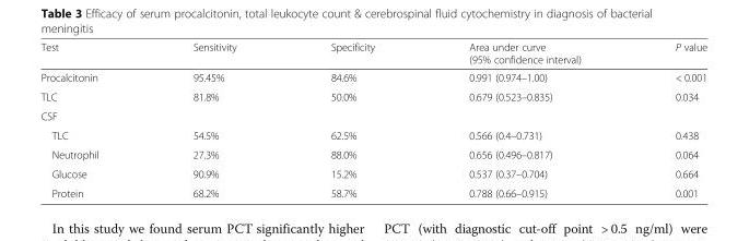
<table><thead><tr><td>Test</td><td>Sensitivity</td><td>Specificity</td><td>Area under curve (95% confidence interval)</td><td>P value</td></tr></thead><tbody><tr><td>Procalcitonin</td><td>95.45%</td><td>84.6%</td><td>0.991 (0.974–1.00)</td><td>&lt; 0.001</td></tr><tr><td>TLC</td><td>81.8%</td><td>50.0%</td><td>0.679 (0.523–0.835)</td><td>0.034</td></tr><tr><td colspan="5">CSF</td></tr><tr><td>TLC</td><td>54.5%</td><td>62.5%</td><td>0.566 (0.4–0.731)</td><td>0.438</td></tr><tr><td>Neutrophil</td><td>27.3%</td><td>88.0%</td><td>0.656 (0.496–0.817)</td><td>0.064</td></tr><tr><td>Glucose</td><td>90.9%</td><td>15.2%</td><td>0.537 (0.37–0.704)</td><td>0.664</td></tr><tr><td>Protein</td><td>68.2%</td><td>58.7%</td><td>0.788 (0.66–0.915)</td><td>0.001</td></tr></tbody></table>